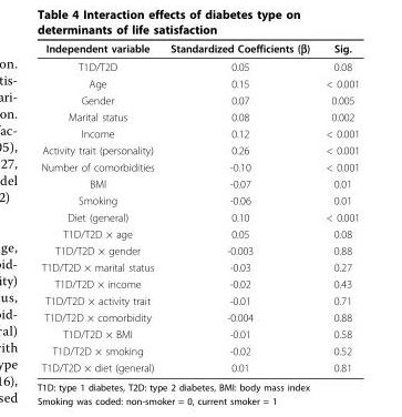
<table><thead><tr><td>Independent variable</td><td>Standardized Coefficients (β)</td><td>Sig.</td></tr></thead><tbody><tr><td>T1D/T2D</td><td>0.05</td><td>0.08</td></tr><tr><td>Age</td><td>0.15</td><td>&lt; 0.001</td></tr><tr><td>Gender</td><td>0.07</td><td>0.005</td></tr><tr><td>Marital status</td><td>0.08</td><td>0.002</td></tr><tr><td>Income</td><td>0.12</td><td>&lt; 0.001</td></tr><tr><td>Activity trait (personality)</td><td>0.26</td><td>&lt; 0.001</td></tr><tr><td>Number of comorbidities</td><td>-0.10</td><td>&lt; 0.001</td></tr><tr><td>BMI</td><td>-0.07</td><td>0.01</td></tr><tr><td>Smoking</td><td>-0.06</td><td>0.01</td></tr><tr><td>Diet (general)</td><td>0.10</td><td>&lt; 0.001</td></tr><tr><td>T1D/T2D × age</td><td>0.05</td><td>0.08</td></tr><tr><td>T1D/T2D × gender</td><td>-0.003</td><td>0.88</td></tr><tr><td>T1D/T2D × marital status</td><td>-0.03</td><td>0.27</td></tr><tr><td>T1D/T2D × income</td><td>-0.02</td><td>0.43</td></tr><tr><td>T1D/T2D × activity trait</td><td>-0.01</td><td>0.71</td></tr><tr><td>T1D/T2D × comorbidity</td><td>-0.004</td><td>0.88</td></tr><tr><td>T1D/T2D × BMI</td><td>-0.01</td><td>0.58</td></tr><tr><td>T1D/T2D × smoking</td><td>-0.02</td><td>0.52</td></tr><tr><td>T1D/T2D × diet (general)</td><td>0.01</td><td>0.81</td></tr></tbody></table>